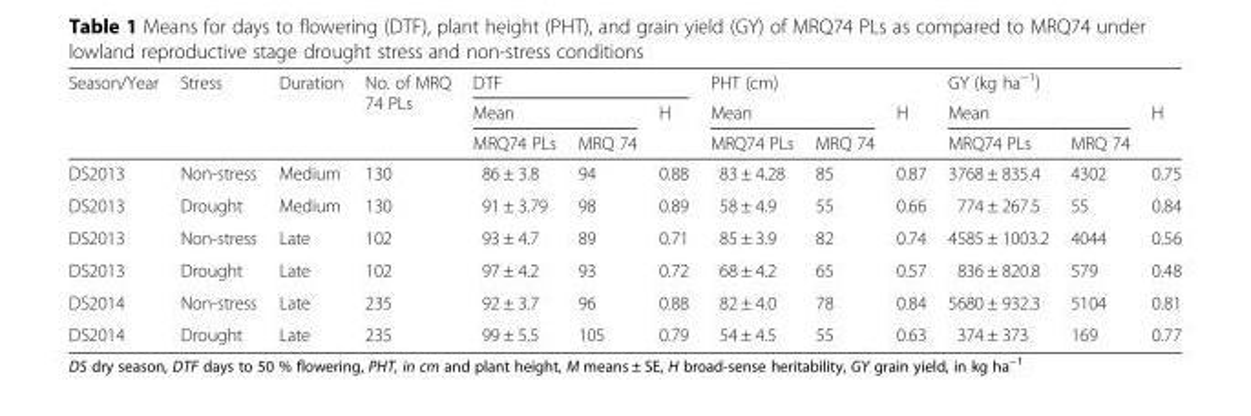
<table><thead><tr><td rowspan="3">Season/Year</td><td rowspan="3">Stress</td><td rowspan="3">Duration</td><td rowspan="3">No. of MRQ 74 PLs</td><td colspan="3">DTF</td><td rowspan="2" colspan="2">PHT (cm) Mean</td><td rowspan="3">H</td><td rowspan="2" colspan="2">GY (kg ha<sup>−1</sup>) Mean</td><td rowspan="3">H</td></tr><tr><td colspan="2">Mean</td><td rowspan="2">H</td></tr><tr><td>MRQ74 PLs</td><td>MRQ 74</td><td>MRQ74 PLs</td><td>MRQ 74</td><td>MRQ74 PLs</td><td>MRQ 74</td></tr></thead><tbody><tr><td>DS2013</td><td>Non-stress</td><td>Medium</td><td>130</td><td>86 ± 3.8</td><td>94</td><td>0.88</td><td>83 ± 4.28</td><td>85</td><td>0.87</td><td>3768 ± 835.4</td><td>4302</td><td>0.75</td></tr><tr><td>DS2013</td><td>Drought</td><td>Medium</td><td>130</td><td>91 ± 3.79</td><td>98</td><td>0.89</td><td>58 ± 4.9</td><td>55</td><td>0.66</td><td>774 ± 267.5</td><td>55</td><td>0.84</td></tr><tr><td>DS2013</td><td>Non-stress</td><td>Late</td><td>102</td><td>93 ± 4.7</td><td>89</td><td>0.71</td><td>85 ± 3.9</td><td>82</td><td>0.74</td><td>4585 ± 1003.2</td><td>4044</td><td>0.56</td></tr><tr><td>DS2013</td><td>Drought</td><td>Late</td><td>102</td><td>97 ± 4.2</td><td>93</td><td>0.72</td><td>68 ± 4.2</td><td>65</td><td>0.57</td><td>836 ± 820.8</td><td>579</td><td>0.48</td></tr><tr><td>DS2014</td><td>Non-stress</td><td>Late</td><td>235</td><td>92 ± 3.7</td><td>96</td><td>0.88</td><td>82 ± 4.0</td><td>78</td><td>0.84</td><td>5680 ± 932.3</td><td>5104</td><td>0.81</td></tr><tr><td>DS2014</td><td>Drought</td><td>Late</td><td>235</td><td>99 ± 5.5</td><td>105</td><td>0.79</td><td>54 ± 4.5</td><td>55</td><td>0.63</td><td>374 ± 373</td><td>169</td><td>0.77</td></tr></tbody></table>